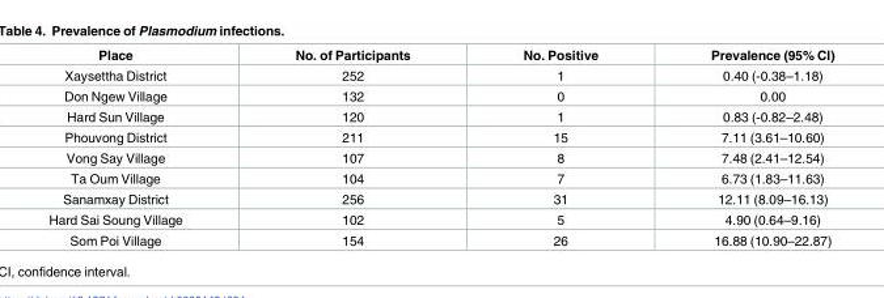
<table><thead><tr><td>Place</td><td>No. of Participants</td><td>No. Positive</td><td>Prevalence (95% CI)</td></tr></thead><tbody><tr><td>Xaysettha District</td><td>252</td><td>1</td><td>0.40 (-0.38–1.18)</td></tr><tr><td>Don Ngew Village</td><td>132</td><td>0</td><td>0.00</td></tr><tr><td>Hard Sun Village</td><td>120</td><td>1</td><td>0.83 (-0.82–2.48)</td></tr><tr><td>Phouvong District</td><td>211</td><td>15</td><td>7.11 (3.61–10.60)</td></tr><tr><td>Vong Say Village</td><td>107</td><td>8</td><td>7.48 (2.41–12.54)</td></tr><tr><td>Ta Oum Village</td><td>104</td><td>7</td><td>6.73 (1.83–11.63)</td></tr><tr><td>Sanamxay District</td><td>256</td><td>31</td><td>12.11 (8.09–16.13)</td></tr><tr><td>Hard Sai Soung Village</td><td>102</td><td>5</td><td>4.90 (0.64–9.16)</td></tr><tr><td>Som Poi Village</td><td>154</td><td>26</td><td>16.88 (10.90–22.87)</td></tr></tbody></table>